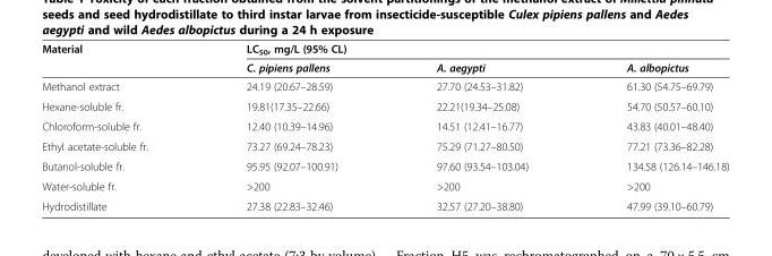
<table><thead><tr><td rowspan="2">Material</td><td colspan="3">LC<sub>50</sub>, mg/L (95% CL)</td></tr><tr><td>C. pipiens pallens</td><td>A. aegypti</td><td>A. albopictus</td></tr></thead><tbody><tr><td>Methanol extract</td><td>24.19 (20.67–28.59)</td><td>27.70 (24.53–31.82)</td><td>61.30 (54.75–69.79)</td></tr><tr><td>Hexane-soluble fr.</td><td>19.81(17.35–22.66)</td><td>22.21(19.34–25.08)</td><td>54.70 (50.57–60.10)</td></tr><tr><td>Chloroform-soluble fr.</td><td>12.40 (10.39–14.96)</td><td>14.51 (12.41–16.77)</td><td>43.83 (40.01–48.40)</td></tr><tr><td>Ethyl acetate-soluble fr.</td><td>73.27 (69.24–78.23)</td><td>75.29 (71.27–80.50)</td><td>77.21 (73.36–82.28)</td></tr><tr><td>Butanol-soluble fr.</td><td>95.95 (92.07–100.91)</td><td>97.60 (93.54–103.04)</td><td>134.58 (126.14–146.18)</td></tr><tr><td>Water-soluble fr.</td><td>&gt;200</td><td>&gt;200</td><td>&gt;200</td></tr><tr><td>Hydrodistillate</td><td>27.38 (22.83–32.46)</td><td>32.57 (27.20–38.80)</td><td>47.99 (39.10–60.79)</td></tr></tbody></table>